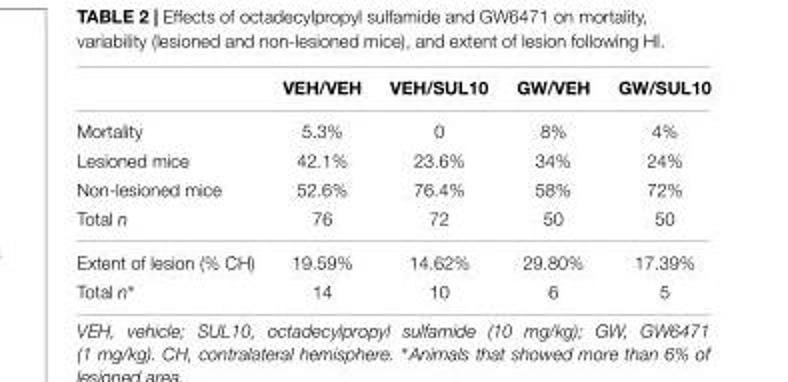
<table><thead><tr><td></td><td>VEH/VEH</td><td>VEH/SUL10</td><td>GW/VEH</td><td>GW/SUL10</td></tr></thead><tbody><tr><td>Mortality</td><td>5.3%</td><td>0</td><td>8%</td><td>4%</td></tr><tr><td>Lesioned mice</td><td>42.1%</td><td>23.6%</td><td>34%</td><td>24%</td></tr><tr><td>Non-lesioned mice</td><td>52.6%</td><td>76.4%</td><td>58%</td><td>72%</td></tr><tr><td>Total n</td><td>76</td><td>72</td><td>50</td><td>50</td></tr><tr><td>Extent of lesion (% CH)</td><td>19.59%</td><td>14.62%</td><td>29.80%</td><td>17.39%</td></tr><tr><td>Total n∗</td><td>14</td><td>10</td><td>6</td><td>5</td></tr></tbody></table>